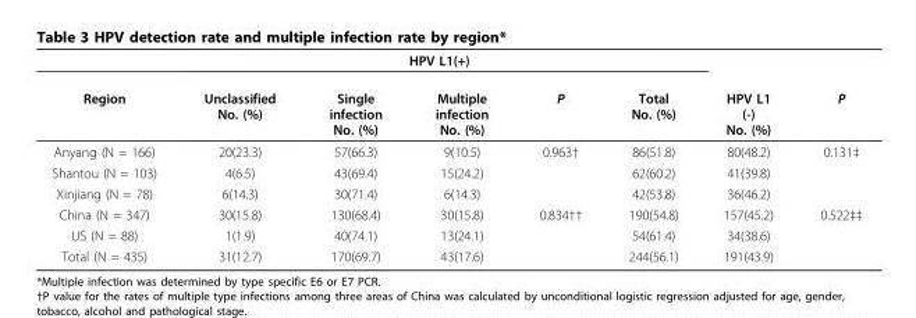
<table><thead><tr><td rowspan="2">Region</td><td colspan="5">HPV L1(+)</td><td rowspan="2">HPV L1 (-) No. (%)</td><td rowspan="2">P</td></tr><tr><td>Unclassified No. (%)</td><td>Single infection No. (%)</td><td>Multiple infection No. (%)</td><td>P</td><td>Total No. (%)</td></tr></thead><tbody><tr><td>Anyang (N = 166)</td><td>20(23.3)</td><td>57(66.3)</td><td>9(10.5)</td><td>0.963†</td><td>86(51.8)</td><td>80(48.2)</td><td>0.131‡</td></tr><tr><td>Shantou (N = 103)</td><td>4(6.5)</td><td>43(69.4)</td><td>15(24.2)</td><td></td><td>62(60.2)</td><td>41(39.8)</td><td></td></tr><tr><td>Xinjiang (N = 78)</td><td>6(14.3)</td><td>30(71.4)</td><td>6(14.3)</td><td></td><td>42(53.8)</td><td>36(46.2)</td><td></td></tr><tr><td>China (N = 347)</td><td>30(15.8)</td><td>130(68.4)</td><td>30(15.8)</td><td>0.834††</td><td>190(54.8)</td><td>157(45.2)</td><td>0.522‡‡</td></tr><tr><td>US (N = 88)</td><td>1(1.9)</td><td>40(74.1)</td><td>13(24.1)</td><td></td><td>54(61.4)</td><td>34(38.6)</td><td></td></tr><tr><td>Total (N = 435)</td><td>31(12.7)</td><td>170(69.7)</td><td>43(17.6)</td><td></td><td>244(56.1)</td><td>191(43.9)</td><td></td></tr></tbody></table>